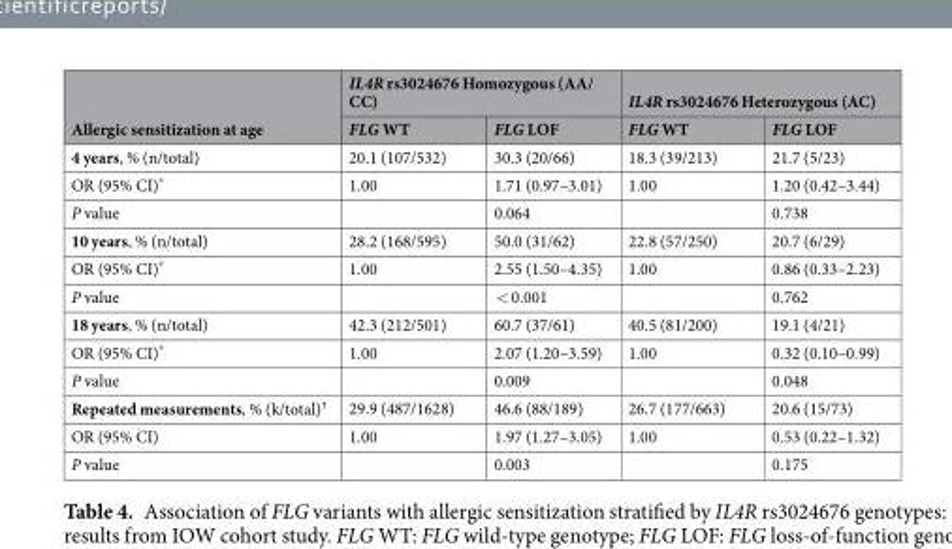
<table><thead><tr><td rowspan="2">Allergic sensitization at age</td><td colspan="2">IL4R rs3024676 Homozygous (AA/ CC)</td><td colspan="2">IL4R rs3024676 Heterozygous (AC)</td></tr><tr><td>FLG WT</td><td>FLG LOF</td><td>FLG WT</td><td>FLG LOF</td></tr></thead><tbody><tr><td>4 years, % (n/total)</td><td>20.1 (107/532)</td><td>30.3 (20/66)</td><td>18.3 (39/213)</td><td>21.7 (5/23)</td></tr><tr><td>OR (95% CI)*</td><td>1.00</td><td>1.71 (0.97–3.01)</td><td>1.00</td><td>1.20 (0.42–3.44)</td></tr><tr><td>P value</td><td></td><td>0.064</td><td></td><td>0.738</td></tr><tr><td>10 years, % (n/total)</td><td>28.2 (168/595)</td><td>50.0 (31/62)</td><td>22.8 (57/250)</td><td>20.7 (6/29)</td></tr><tr><td>OR (95% CI)*</td><td>1.00</td><td>2.55 (1.50–4.35)</td><td>1.00</td><td>0.86 (0.33–2.23)</td></tr><tr><td>P value</td><td></td><td>&lt; 0.001</td><td></td><td>0.762</td></tr><tr><td>18 years, % (n/total)</td><td>42.3 (212/501)</td><td>60.7 (37/61)</td><td>40.5 (81/200)</td><td>19.1 (4/21)</td></tr><tr><td>OR (95% CI)*</td><td>1.00</td><td>2.07 (1.20–3.59)</td><td>1.00</td><td>0.32 (0.10–0.99)</td></tr><tr><td>P value</td><td></td><td>0.009</td><td></td><td>0.048</td></tr><tr><td>Repeated measurements, % (k/total)<sup>†</sup></td><td>29.9 (487/1628)</td><td>46.6 (88/189)</td><td>26.7 (177/663)</td><td>20.6 (15/73)</td></tr><tr><td>OR (95% CI)</td><td>1.00</td><td>1.97 (1.27–3.05)</td><td>1.00</td><td>0.53 (0.22–1.32)</td></tr><tr><td>P value</td><td></td><td>0.003</td><td></td><td>0.175</td></tr></tbody></table>